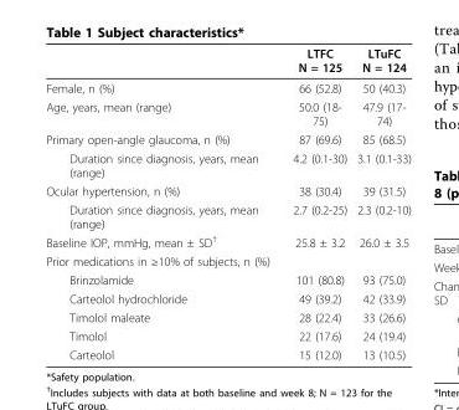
<table><thead><tr><td></td><td>LTFC N = 125</td><td>LTuFC N = 124</td></tr></thead><tbody><tr><td>Female, n (%)</td><td>66 (52.8)</td><td>50 (40.3)</td></tr><tr><td>Age, years, mean (range)</td><td>50.0 (18- 75)</td><td>47.9 (17- 74)</td></tr><tr><td>Primary open-angle glaucoma, n (%)</td><td>87 (69.6)</td><td>85 (68.5)</td></tr><tr><td>Duration since diagnosis, years, mean (range)</td><td>4.2 (0.1-30)</td><td>3.1 (0.1-33)</td></tr><tr><td>Ocular hypertension, n (%)</td><td>38 (30.4)</td><td>39 (31.5)</td></tr><tr><td>Duration since diagnosis, years, mean (range)</td><td>2.7 (0.2-25)</td><td>2.3 (0.2-10)</td></tr><tr><td>Baseline IOP, mmHg, mean ± SD<sup>†</sup></td><td>25.8 ± 3.2</td><td>26.0 ± 3.5</td></tr><tr><td colspan="3">Prior medications in ≥10% of subjects, n (%)</td></tr><tr><td>Brinzolamide</td><td>101 (80.8)</td><td>93 (75.0)</td></tr><tr><td>Carteolol hydrochloride</td><td>49 (39.2)</td><td>42 (33.9)</td></tr><tr><td>Timolol maleate</td><td>28 (22.4)</td><td>33 (26.6)</td></tr><tr><td>Timolol</td><td>22 (17.6)</td><td>24 (19.4)</td></tr><tr><td>Carteolol</td><td>15 (12.0)</td><td>13 (10.5)</td></tr></tbody></table>